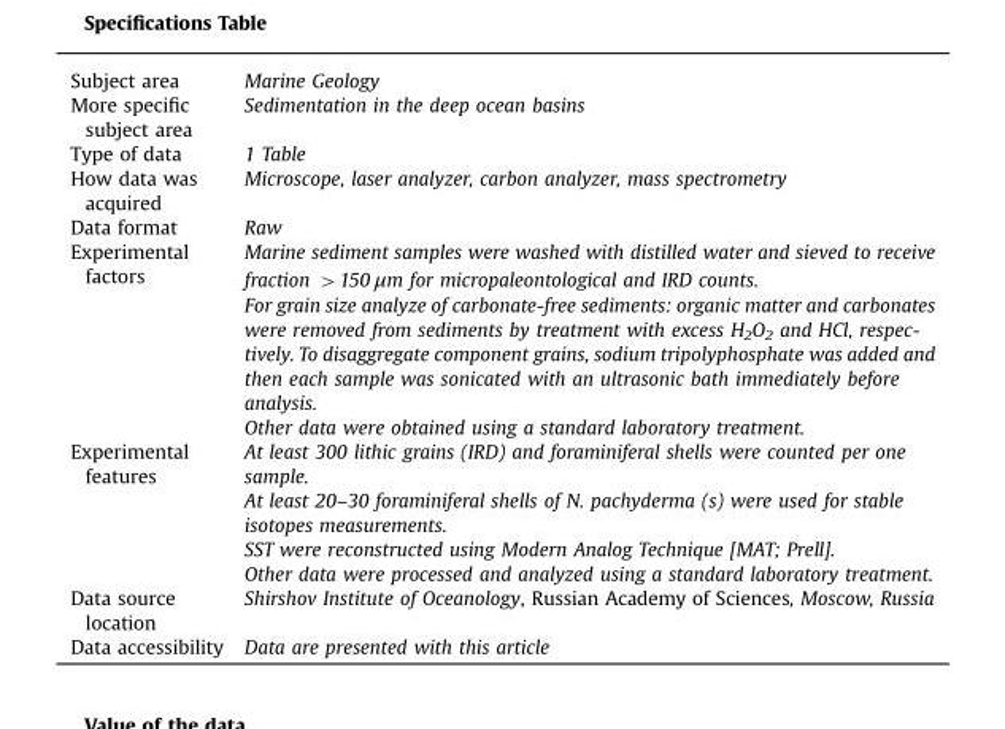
<table><tbody><tr><td>Subject area</td><td>Marine Geology</td></tr><tr><td>More specific subject area</td><td>Sedimentation in the deep ocean basins</td></tr><tr><td>Type of data</td><td>1 Table</td></tr><tr><td>How data was acquired</td><td>Microscope, laser analyzer, carbon analyzer, mass spectrometry</td></tr><tr><td>Data format</td><td>Raw</td></tr><tr><td rowspan="3">Experimental factors</td><td>Marine sediment samples were washed with distilled water and sieved to receive fraction &gt;150 μm for micropaleontological and IRD counts.</td></tr><tr><td>For grain size analyze of carbonate-free sediments: organic matter and carbonates were removed from sediments by treatment with excess H2O2 and HCl, respec- tively. To disaggregate component grains, sodium tripolyphosphate was added and then each sample was sonicated with an ultrasonic bath immediately before analysis.</td></tr><tr><td>Other data were obtained using a standard laboratory treatment.</td></tr><tr><td rowspan="4">Experimental features</td><td>At least 300 lithic grains (IRD) and foraminiferal shells were counted per one sample.</td></tr><tr><td>At least 20–30 foraminiferal shells of N. pachyderma (s) were used for stable isotopes measurements.</td></tr><tr><td>SST were reconstructed using Modern Analog Technique [MAT; Prell].</td></tr><tr><td>Other data were processed and analyzed using a standard laboratory treatment.</td></tr><tr><td>Data source location</td><td>Shirshov Institute of Oceanology, Russian Academy of Sciences, Moscow, Russia</td></tr><tr><td>Data accessibility</td><td>Data are presented with this article</td></tr></tbody></table>